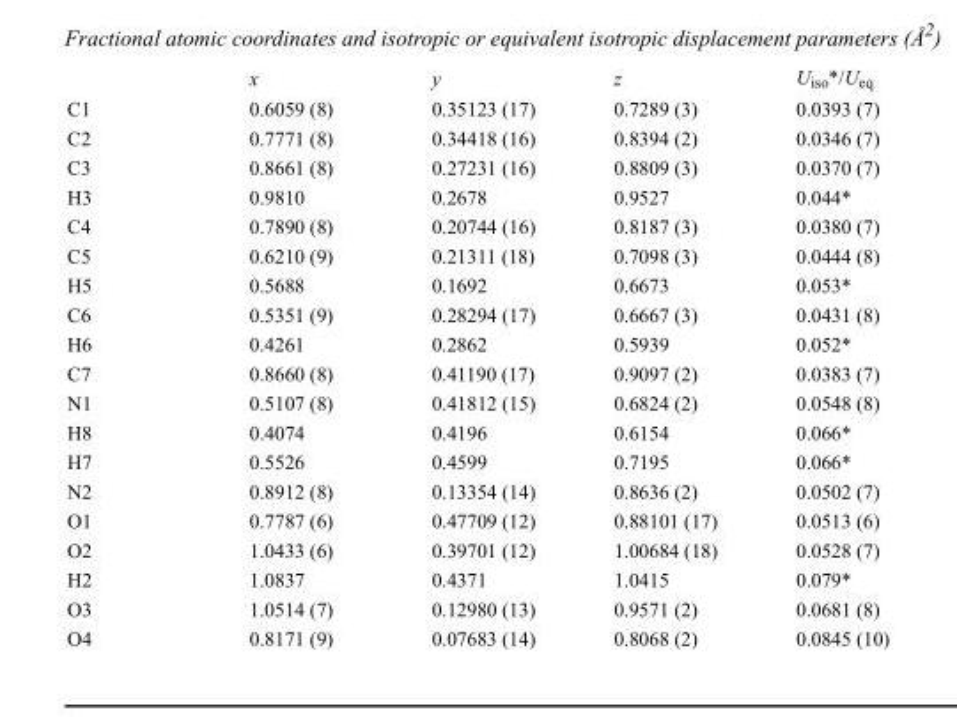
<table><thead><tr><td></td><td>x</td><td>y</td><td>z</td><td>U<sub>iso</sub>*/U<sub>eq</sub></td></tr></thead><tbody><tr><td>C1</td><td>0.6059 (8)</td><td>0.35123 (17)</td><td>0.7289 (3)</td><td>0.0393 (7)</td></tr><tr><td>C2</td><td>0.7771 (8)</td><td>0.34418 (16)</td><td>0.8394 (2)</td><td>0.0346 (7)</td></tr><tr><td>C3</td><td>0.8661 (8)</td><td>0.27231 (16)</td><td>0.8809 (3)</td><td>0.0370 (7)</td></tr><tr><td>H3</td><td>0.9810</td><td>0.2678</td><td>0.9527</td><td>0.044*</td></tr><tr><td>C4</td><td>0.7890 (8)</td><td>0.20744 (16)</td><td>0.8187 (3)</td><td>0.0380 (7)</td></tr><tr><td>C5</td><td>0.6210 (9)</td><td>0.21311 (18)</td><td>0.7098 (3)</td><td>0.0444 (8)</td></tr><tr><td>H5</td><td>0.5688</td><td>0.1692</td><td>0.6673</td><td>0.053*</td></tr><tr><td>C6</td><td>0.5351 (9)</td><td>0.28294 (17)</td><td>0.6667 (3)</td><td>0.0431 (8)</td></tr><tr><td>H6</td><td>0.4261</td><td>0.2862</td><td>0.5939</td><td>0.052*</td></tr><tr><td>C7</td><td>0.8660 (8)</td><td>0.41190 (17)</td><td>0.9097 (2)</td><td>0.0383 (7)</td></tr><tr><td>N1</td><td>0.5107 (8)</td><td>0.41812 (15)</td><td>0.6824 (2)</td><td>0.0548 (8)</td></tr><tr><td>H8</td><td>0.4074</td><td>0.4196</td><td>0.6154</td><td>0.066*</td></tr><tr><td>H7</td><td>0.5526</td><td>0.4599</td><td>0.7195</td><td>0.066*</td></tr><tr><td>N2</td><td>0.8912 (8)</td><td>0.13354 (14)</td><td>0.8636 (2)</td><td>0.0502 (7)</td></tr><tr><td>O1</td><td>0.7787 (6)</td><td>0.47709 (12)</td><td>0.88101 (17)</td><td>0.0513 (6)</td></tr><tr><td>O2</td><td>1.0433 (6)</td><td>0.39701 (12)</td><td>1.00684 (18)</td><td>0.0528 (7)</td></tr><tr><td>H2</td><td>1.0837</td><td>0.4371</td><td>1.0415</td><td>0.079*</td></tr><tr><td>O3</td><td>1.0514 (7)</td><td>0.12980 (13)</td><td>0.9571 (2)</td><td>0.0681 (8)</td></tr><tr><td>O4</td><td>0.8171 (9)</td><td>0.07683 (14)</td><td>0.8068 (2)</td><td>0.0845 (10)</td></tr></tbody></table>